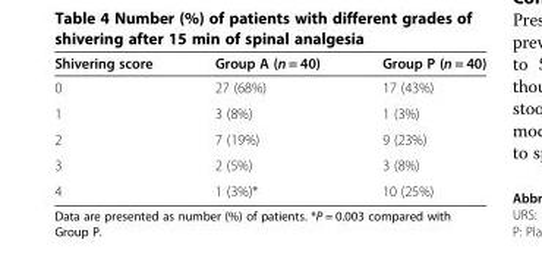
<table><thead><tr><td>Shivering score</td><td>Group A (n = 40)</td><td>Group P (n = 40)</td></tr></thead><tbody><tr><td>0</td><td>27 (68%)</td><td>17 (43%)</td></tr><tr><td>1</td><td>3 (8%)</td><td>1 (3%)</td></tr><tr><td>2</td><td>7 (19%)</td><td>9 (23%)</td></tr><tr><td>3</td><td>2 (5%)</td><td>3 (8%)</td></tr><tr><td>4</td><td>1 (3%)*</td><td>10 (25%)</td></tr></tbody></table>